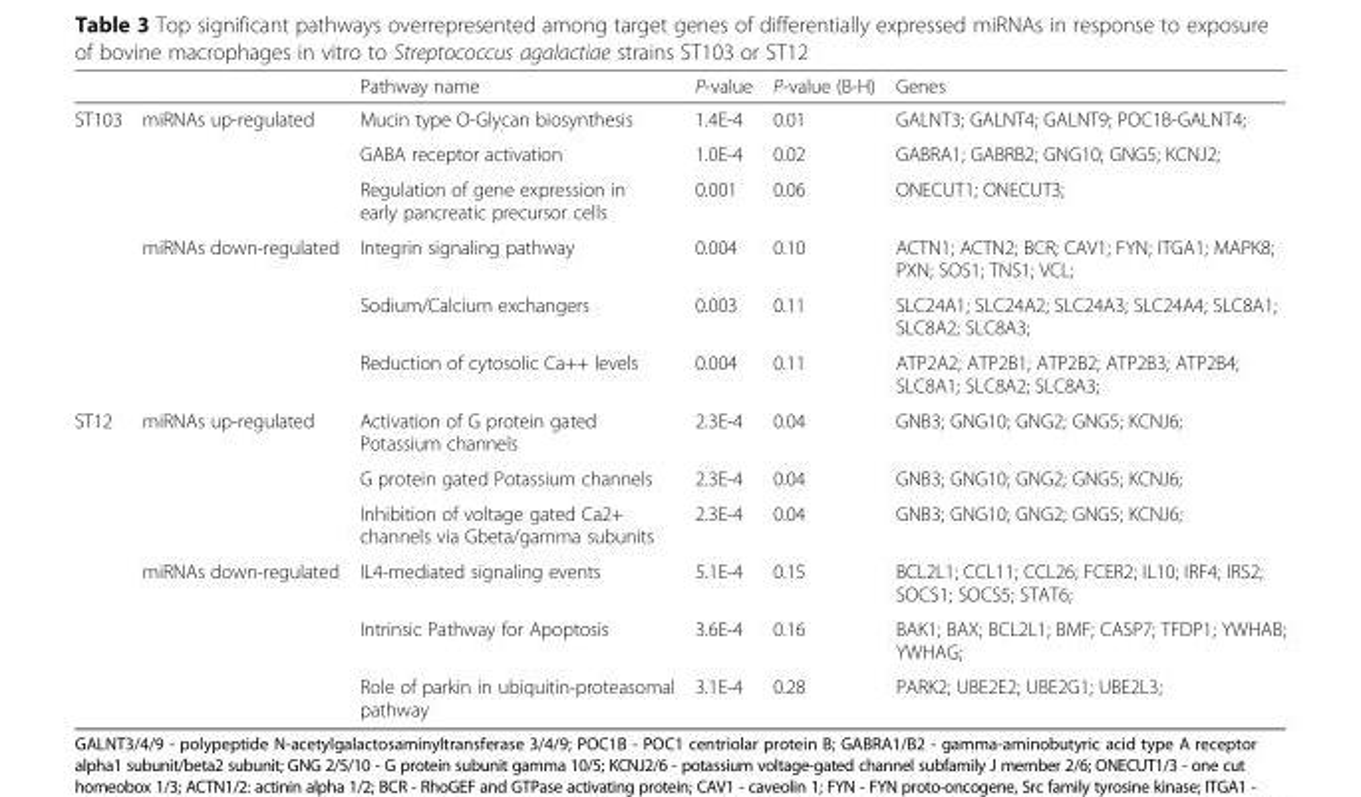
<table><thead><tr><td></td><td></td><td>Pathway name</td><td>P-value</td><td>P-value (B-H)</td><td>Genes</td></tr></thead><tbody><tr><td rowspan="6">ST103</td><td rowspan="3">miRNAs up-regulated</td><td>Mucin type O-Glycan biosynthesis</td><td>1.4E-4</td><td>0.01</td><td>GALNT3; GALNT4; GALNT9; POC1B-GALNT4;</td></tr><tr><td>GABA receptor activation</td><td>1.0E-4</td><td>0.02</td><td>GABRA1; GABRB2; GNG10; GNG5; KCNJ2;</td></tr><tr><td>Regulation of gene expression in early pancreatic precursor cells</td><td>0.001</td><td>0.06</td><td>ONECUT1; ONECUT3;</td></tr><tr><td rowspan="3">miRNAs down-regulated</td><td>Integrin signaling pathway</td><td>0.004</td><td>0.10</td><td>ACTN1; ACTN2; BCR; CAV1; FYN; ITGA1; MAPK8; PXN; SOS1; TNS1; VCL;</td></tr><tr><td>Sodium/Calcium exchangers</td><td>0.003</td><td>0.11</td><td>SLC24A1; SLC24A2; SLC24A3; SLC24A4; SLC8A1; SLC8A2; SLC8A3;</td></tr><tr><td>Reduction of cytosolic Ca++ levels</td><td>0.004</td><td>0.11</td><td>ATP2A2; ATP2B1; ATP2B2; ATP2B3; ATP2B4; SLC8A1; SLC8A2; SLC8A3;</td></tr><tr><td rowspan="6">ST12</td><td rowspan="3">miRNAs up-regulated</td><td>Activation of G protein gated Potassium channels</td><td>2.3E-4</td><td>0.04</td><td>GNB3; GNG10; GNG2; GNG5; KCNJ6;</td></tr><tr><td>G protein gated Potassium channels</td><td>2.3E-4</td><td>0.04</td><td>GNB3; GNG10; GNG2; GNG5; KCNJ6;</td></tr><tr><td>Inhibition of voltage gated Ca2+ channels via Gbeta/gamma subunits</td><td>2.3E-4</td><td>0.04</td><td>GNB3; GNG10; GNG2; GNG5; KCNJ6;</td></tr><tr><td rowspan="3">miRNAs down-regulated</td><td>IL4-mediated signaling events</td><td>5.1E-4</td><td>0.15</td><td>BCL2L1; CCL11; CCL26; FCER2; IL10; IRF4; IRS2; SOCS1; SOCS5; STAT6;</td></tr><tr><td>Intrinsic Pathway for Apoptosis</td><td>3.6E-4</td><td>0.16</td><td>BAK1; BAX; BCL2L1; BMF; CASP7; TFDP1; YWHAB; YWHAG;</td></tr><tr><td>Role of parkin in ubiquitin-proteasomal pathway</td><td>3.1E-4</td><td>0.28</td><td>PARK2; UBE2E2; UBE2G1; UBE2L3;</td></tr></tbody></table>